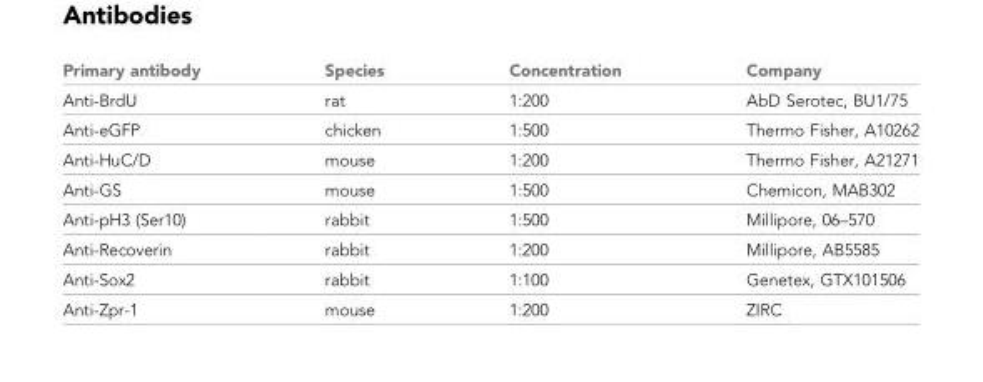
<table><thead><tr><td>Primary antibody</td><td>Species</td><td>Concentration</td><td>Company</td></tr></thead><tbody><tr><td>Anti-BrdU</td><td>rat</td><td>1:200</td><td>AbD Serotec, BU1/75</td></tr><tr><td>Anti-eGFP</td><td>chicken</td><td>1:500</td><td>Thermo Fisher, A10262</td></tr><tr><td>Anti-HuC/D</td><td>mouse</td><td>1:200</td><td>Thermo Fisher, A21271</td></tr><tr><td>Anti-GS</td><td>mouse</td><td>1:500</td><td>Chemicon, MAB302</td></tr><tr><td>Anti-pH3 (Ser10)</td><td>rabbit</td><td>1:500</td><td>Millipore, 06–570</td></tr><tr><td>Anti-Recoverin</td><td>rabbit</td><td>1:200</td><td>Millipore, AB5585</td></tr><tr><td>Anti-Sox2</td><td>rabbit</td><td>1:100</td><td>Genetex, GTX101506</td></tr><tr><td>Anti-Zpr-1</td><td>mouse</td><td>1:200</td><td>ZIRC</td></tr></tbody></table>